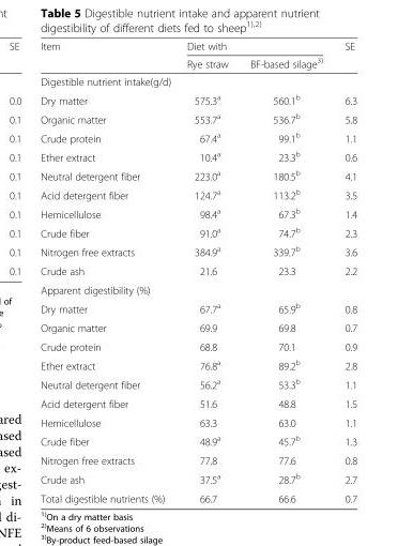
<table><thead><tr><td rowspan="2">Item</td><td colspan="2">Diet with</td><td rowspan="2">SE</td></tr><tr><td>Rye straw</td><td>BF-based silage<sup>3)</sup></td></tr></thead><tbody><tr><td colspan="4">Digestible nutrient intake(g/d)</td></tr><tr><td>Dry matter</td><td>575.3<sup>a</sup></td><td>560.1<sup>b</sup></td><td>6.3</td></tr><tr><td>Organic matter</td><td>553.7<sup>a</sup></td><td>536.7<sup>b</sup></td><td>5.8</td></tr><tr><td>Crude protein</td><td>67.4<sup>a</sup></td><td>99.1<sup>b</sup></td><td>1.1</td></tr><tr><td>Ether extract</td><td>10.4<sup>a</sup></td><td>23.3<sup>b</sup></td><td>0.6</td></tr><tr><td>Neutral detergent fiber</td><td>223.0<sup>a</sup></td><td>180.5<sup>b</sup></td><td>4.1</td></tr><tr><td>Acid detergent fiber</td><td>124.7<sup>a</sup></td><td>113.2<sup>b</sup></td><td>3.5</td></tr><tr><td>Hemicellulose</td><td>98.4<sup>a</sup></td><td>67.3<sup>b</sup></td><td>1.4</td></tr><tr><td>Crude fiber</td><td>91.0<sup>a</sup></td><td>74.7<sup>b</sup></td><td>2.3</td></tr><tr><td>Nitrogen free extracts</td><td>384.9<sup>a</sup></td><td>339.7<sup>b</sup></td><td>3.6</td></tr><tr><td>Crude ash</td><td>21.6</td><td>23.3</td><td>2.2</td></tr><tr><td colspan="4">Apparent digestibility (%)</td></tr><tr><td>Dry matter</td><td>67.7<sup>a</sup></td><td>65.9<sup>b</sup></td><td>0.8</td></tr><tr><td>Organic matter</td><td>69.9</td><td>69.8</td><td>0.7</td></tr><tr><td>Crude protein</td><td>68.8</td><td>70.1</td><td>0.9</td></tr><tr><td>Ether extract</td><td>76.8<sup>a</sup></td><td>89.2<sup>b</sup></td><td>2.8</td></tr><tr><td>Neutral detergent fiber</td><td>56.2<sup>a</sup></td><td>53.3<sup>b</sup></td><td>1.1</td></tr><tr><td>Acid detergent fiber</td><td>51.6</td><td>48.8</td><td>1.5</td></tr><tr><td>Hemicellulose</td><td>63.3</td><td>63.0</td><td>1.1</td></tr><tr><td>Crude fiber</td><td>48.9<sup>a</sup></td><td>45.7<sup>b</sup></td><td>1.3</td></tr><tr><td>Nitrogen free extracts</td><td>77.8</td><td>77.6</td><td>0.8</td></tr><tr><td>Crude ash</td><td>37.5<sup>a</sup></td><td>28.7<sup>b</sup></td><td>2.7</td></tr><tr><td>Total digestible nutrients (%)</td><td>66.7</td><td>66.6</td><td>0.7</td></tr></tbody></table>